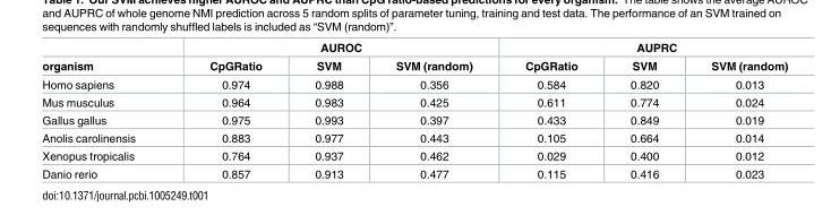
<table><thead><tr><td rowspan="2">organism</td><td colspan="3">AUROC</td><td colspan="3">AUPRC</td></tr><tr><td>CpGRatio</td><td>SVM</td><td>SVM (random)</td><td>CpGRatio</td><td>SVM</td><td>SVM (random)</td></tr></thead><tbody><tr><td>Homo sapiens</td><td>0.974</td><td>0.988</td><td>0.356</td><td>0.584</td><td>0.820</td><td>0.013</td></tr><tr><td>Mus musculus</td><td>0.964</td><td>0.983</td><td>0.425</td><td>0.611</td><td>0.774</td><td>0.024</td></tr><tr><td>Gallus gallus</td><td>0.975</td><td>0.993</td><td>0.397</td><td>0.433</td><td>0.849</td><td>0.019</td></tr><tr><td>Anolis carolinensis</td><td>0.883</td><td>0.977</td><td>0.443</td><td>0.105</td><td>0.664</td><td>0.014</td></tr><tr><td>Xenopus tropicalis</td><td>0.764</td><td>0.937</td><td>0.462</td><td>0.029</td><td>0.400</td><td>0.012</td></tr><tr><td>Danio rerio</td><td>0.857</td><td>0.913</td><td>0.477</td><td>0.115</td><td>0.416</td><td>0.023</td></tr></tbody></table>